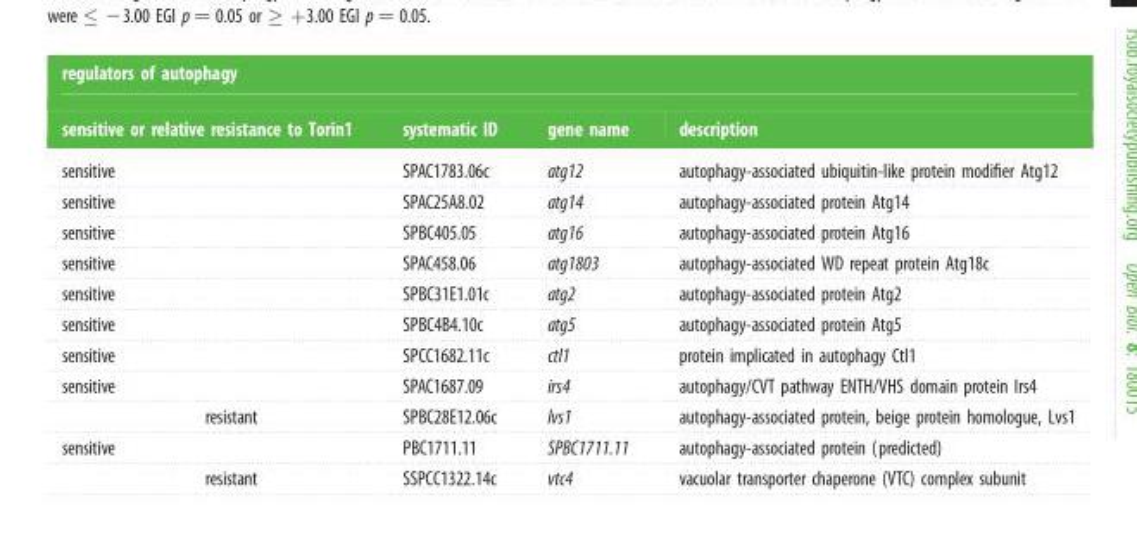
<table><thead><tr><td colspan="4">regulators of autophagy</td></tr><tr><td>sensitive or relative resistance to Torin1</td><td>systematic ID</td><td>gene name</td><td>description</td></tr></thead><tbody><tr><td>sensitive</td><td>SPAC1783.06c</td><td>atg12</td><td>autophagy-associated ubiquitin-like protein modifier Atg12</td></tr><tr><td>sensitive</td><td>SPAC25A8.02</td><td>atg14</td><td>autophagy-associated protein Atg14</td></tr><tr><td>sensitive</td><td>SPBC405.05</td><td>atg16</td><td>autophagy-associated protein Atg16</td></tr><tr><td>sensitive</td><td>SPAC458.06</td><td>atg1803</td><td>autophagy-associated WD repeat protein Atg18c</td></tr><tr><td>sensitive</td><td>SPBC31E1.01c</td><td>atg2</td><td>autophagy-associated protein Atg2</td></tr><tr><td>sensitive</td><td>SPBC4B4.10c</td><td>atg5</td><td>autophagy-associated protein Atg5</td></tr><tr><td>sensitive</td><td>SPCC1682.11c</td><td>ctl1</td><td>protein implicated in autophagy Ctl1</td></tr><tr><td>sensitive</td><td>SPAC1687.09</td><td>irs4</td><td>autophagy/CVT pathway ENTH/VHS domain protein Irs4</td></tr><tr><td>resistant</td><td>SPBC28E12.06c</td><td>lvs1</td><td>autophagy-associated protein, beige protein homologue, Lvs1</td></tr><tr><td>sensitive</td><td>PBC1711.11</td><td>SPBC1711.11</td><td>autophagy-associated protein (predicted)</td></tr><tr><td>resistant</td><td>SSPCC1322.14c</td><td>vtc4</td><td>vacuolar transporter chaperone (VTC) complex subunit</td></tr></tbody></table>